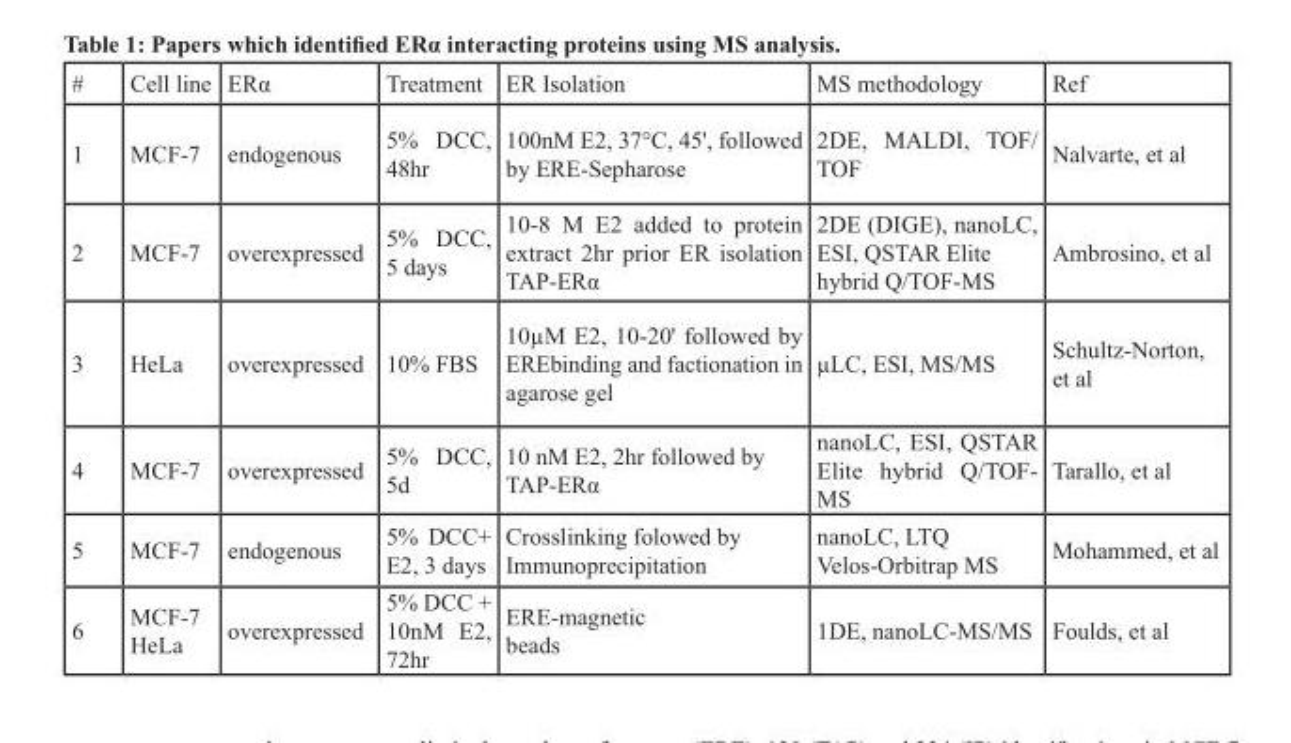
<table><thead><tr><td>#</td><td>Cell line</td><td>ERα</td><td>Treatment</td><td>ER Isolation</td><td>MS methodology</td><td>Ref</td></tr></thead><tbody><tr><td>1</td><td>MCF-7</td><td>endogenous</td><td>5% DCC, 48hr</td><td>100nM E2, 37°C, 45&#x27;, followed by ERE-Sepharose</td><td>2DE, MALDI, TOF/ TOF</td><td>Nalvarte, et al</td></tr><tr><td>2</td><td>MCF-7</td><td>overexpressed</td><td>5% DCC, 5 days</td><td>10-8 M E2 added to protein extract 2hr prior ER isolation TAP-ERα</td><td>2DE (DIGE), nanoLC, ESI, QSTAR Elite hybrid Q/TOF-MS</td><td>Ambrosino, et al</td></tr><tr><td>3</td><td>HeLa</td><td>overexpressed</td><td>10% FBS</td><td>10µM E2, 10-20&#x27; followed by EREbinding and factionation in agarose gel</td><td>µLC, ESI, MS/MS</td><td>Schultz-Norton, et al</td></tr><tr><td>4</td><td>MCF-7</td><td>overexpressed</td><td>5% DCC, 5d</td><td>10 nM E2, 2hr followed by TAP-ERα</td><td>nanoLC, ESI, QSTAR Elite hybrid Q/TOF- MS</td><td>Tarallo, et al</td></tr><tr><td>5</td><td>MCF-7</td><td>endogenous</td><td>5% DCC+ E2, 3 days</td><td>Crosslinking folowed by Immunoprecipitation</td><td>nanoLC, LTQ Velos-Orbitrap MS</td><td>Mohammed, et al</td></tr><tr><td>6</td><td>MCF-7 HeLa</td><td>overexpressed</td><td>5% DCC + 10nM E2, 72hr</td><td>ERE-magnetic beads</td><td>1DE, nanoLC-MS/MS</td><td>Foulds, et al</td></tr></tbody></table>